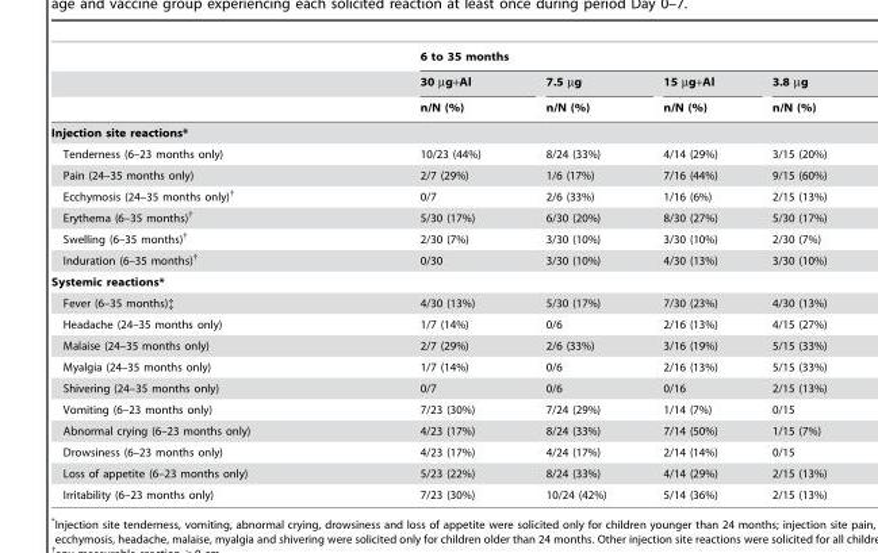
<table><thead><tr><td rowspan="3"></td><td colspan="4">6 to 35 months</td></tr><tr><td rowspan="2">30 µg+Al n/N (%)</td><td rowspan="2">7.5 µg n/N (%)</td><td rowspan="2">15 µg+Al n/N (%)</td><td rowspan="2">3.8 µg n/N (%)</td></tr><tr></tr></thead><tbody><tr><td colspan="5">Injection site reactions*</td></tr><tr><td>Tenderness (6–23 months only)</td><td>10/23 (44%)</td><td>8/24 (33%)</td><td>4/14 (29%)</td><td>3/15 (20%)</td></tr><tr><td>Pain (24–35 months only)</td><td>2/7 (29%)</td><td>1/6 (17%)</td><td>7/16 (44%)</td><td>9/15 (60%)</td></tr><tr><td>Ecchymosis (24–35 months only)†</td><td>0/7</td><td>2/6 (33%)</td><td>1/16 (6%)</td><td>2/15 (13%)</td></tr><tr><td>Erythema (6–35 months)†</td><td>5/30 (17%)</td><td>6/30 (20%)</td><td>8/30 (27%)</td><td>5/30 (17%)</td></tr><tr><td>Swelling (6–35 months)†</td><td>2/30 (7%)</td><td>3/30 (10%)</td><td>3/30 (10%)</td><td>2/30 (7%)</td></tr><tr><td>Induration (6–35 months)†</td><td>0/30</td><td>3/30 (10%)</td><td>4/30 (13%)</td><td>3/30 (10%)</td></tr><tr><td colspan="5">Systemic reactions*</td></tr><tr><td>Fever (6–35 months)‡</td><td>4/30 (13%)</td><td>5/30 (17%)</td><td>7/30 (23%)</td><td>4/30 (13%)</td></tr><tr><td>Headache (24–35 months only)</td><td>1/7 (14%)</td><td>0/6</td><td>2/16 (13%)</td><td>4/15 (27%)</td></tr><tr><td>Malaise (24–35 months only)</td><td>2/7 (29%)</td><td>2/6 (33%)</td><td>3/16 (19%)</td><td>5/15 (33%)</td></tr><tr><td>Myalgia (24–35 months only)</td><td>1/7 (14%)</td><td>0/6</td><td>2/16 (13%)</td><td>5/15 (33%)</td></tr><tr><td>Shivering (24–35 months only)</td><td>0/7</td><td>0/6</td><td>0/16</td><td>2/15 (13%)</td></tr><tr><td>Vomiting (6–23 months only)</td><td>7/23 (30%)</td><td>7/24 (29%)</td><td>1/14 (7%)</td><td>0/15</td></tr><tr><td>Abnormal crying (6–23 months only)</td><td>4/23 (17%)</td><td>8/24 (33%)</td><td>7/14 (50%)</td><td>1/15 (7%)</td></tr><tr><td>Drowsiness (6–23 months only)</td><td>4/23 (17%)</td><td>4/24 (17%)</td><td>2/14 (14%)</td><td>0/15</td></tr><tr><td>Loss of appetite (6–23 months only)</td><td>5/23 (22%)</td><td>8/24 (33%)</td><td>4/14 (29%)</td><td>2/15 (13%)</td></tr><tr><td>Irritability (6–23 months only)</td><td>7/23 (30%)</td><td>10/24 (42%)</td><td>5/14 (36%)</td><td>2/15 (13%)</td></tr></tbody></table>